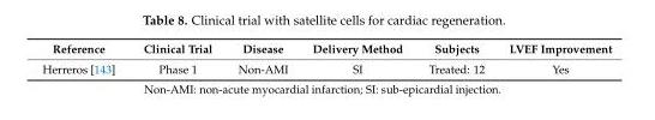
<table><thead><tr><td>Reference</td><td>Clinical Trial</td><td>Disease</td><td>Delivery Method</td><td>Subjects</td><td>LVEF Improvement</td></tr></thead><tbody><tr><td>Herreros [143]</td><td>Phase 1</td><td>Non-AMI</td><td>SI</td><td>Treated: 12</td><td>Yes</td></tr></tbody></table>